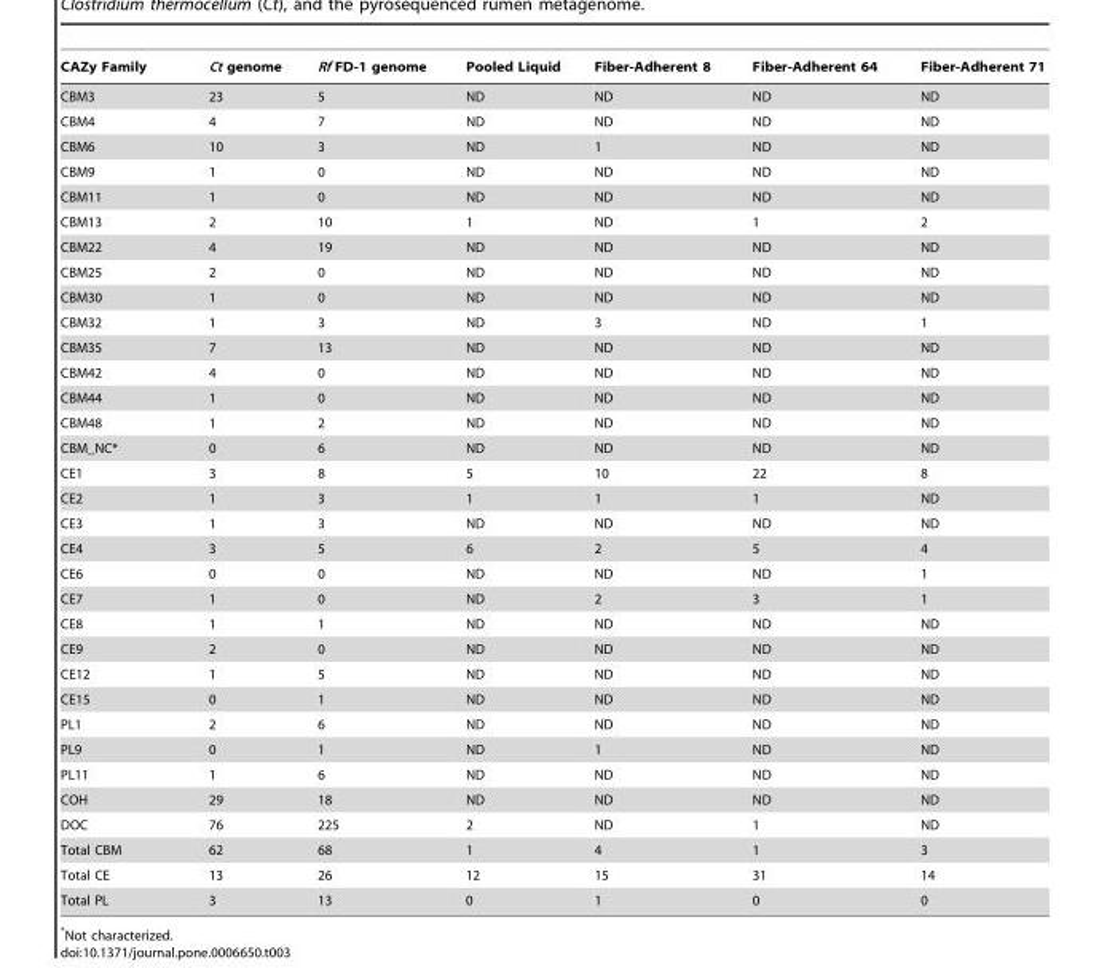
<table><thead><tr><td>CAZy Family</td><td>Ct genome</td><td>Rf FD-1 genome</td><td>Pooled Liquid</td><td>Fiber-Adherent 8</td><td>Fiber-Adherent 64</td><td>Fiber-Adherent 71</td></tr></thead><tbody><tr><td>CBM3</td><td>23</td><td>5</td><td>ND</td><td>ND</td><td>ND</td><td>ND</td></tr><tr><td>CBM4</td><td>4</td><td>7</td><td>ND</td><td>ND</td><td>ND</td><td>ND</td></tr><tr><td>CBM6</td><td>10</td><td>3</td><td>ND</td><td>1</td><td>ND</td><td>ND</td></tr><tr><td>CBM9</td><td>1</td><td>0</td><td>ND</td><td>ND</td><td>ND</td><td>ND</td></tr><tr><td>CBM11</td><td>1</td><td>0</td><td>ND</td><td>ND</td><td>ND</td><td>ND</td></tr><tr><td>CBM13</td><td>2</td><td>10</td><td>1</td><td>ND</td><td>1</td><td>2</td></tr><tr><td>CBM22</td><td>4</td><td>19</td><td>ND</td><td>ND</td><td>ND</td><td>ND</td></tr><tr><td>CBM25</td><td>2</td><td>0</td><td>ND</td><td>ND</td><td>ND</td><td>ND</td></tr><tr><td>CBM30</td><td>1</td><td>0</td><td>ND</td><td>ND</td><td>ND</td><td>ND</td></tr><tr><td>CBM32</td><td>1</td><td>3</td><td>ND</td><td>3</td><td>ND</td><td>1</td></tr><tr><td>CBM35</td><td>7</td><td>13</td><td>ND</td><td>ND</td><td>ND</td><td>ND</td></tr><tr><td>CBM42</td><td>4</td><td>0</td><td>ND</td><td>ND</td><td>ND</td><td>ND</td></tr><tr><td>CBM44</td><td>1</td><td>0</td><td>ND</td><td>ND</td><td>ND</td><td>ND</td></tr><tr><td>CBM48</td><td>1</td><td>2</td><td>ND</td><td>ND</td><td>ND</td><td>ND</td></tr><tr><td>CBM_NC*</td><td>0</td><td>6</td><td>ND</td><td>ND</td><td>ND</td><td>ND</td></tr><tr><td>CE1</td><td>3</td><td>8</td><td>5</td><td>10</td><td>22</td><td>8</td></tr><tr><td>CE2</td><td>1</td><td>3</td><td>1</td><td>1</td><td>1</td><td>ND</td></tr><tr><td>CE3</td><td>1</td><td>3</td><td>ND</td><td>ND</td><td>ND</td><td>ND</td></tr><tr><td>CE4</td><td>3</td><td>5</td><td>6</td><td>2</td><td>5</td><td>4</td></tr><tr><td>CE6</td><td>0</td><td>0</td><td>ND</td><td>ND</td><td>ND</td><td>1</td></tr><tr><td>CE7</td><td>1</td><td>0</td><td>ND</td><td>2</td><td>3</td><td>1</td></tr><tr><td>CE8</td><td>1</td><td>1</td><td>ND</td><td>ND</td><td>ND</td><td>ND</td></tr><tr><td>CE9</td><td>2</td><td>0</td><td>ND</td><td>ND</td><td>ND</td><td>ND</td></tr><tr><td>CE12</td><td>1</td><td>5</td><td>ND</td><td>ND</td><td>ND</td><td>ND</td></tr><tr><td>CE15</td><td>0</td><td>1</td><td>ND</td><td>ND</td><td>ND</td><td>ND</td></tr><tr><td>PL1</td><td>2</td><td>6</td><td>ND</td><td>ND</td><td>ND</td><td>ND</td></tr><tr><td>PL9</td><td>0</td><td>1</td><td>ND</td><td>1</td><td>ND</td><td>ND</td></tr><tr><td>PL11</td><td>1</td><td>6</td><td>ND</td><td>ND</td><td>ND</td><td>ND</td></tr><tr><td>COH</td><td>29</td><td>18</td><td>ND</td><td>ND</td><td>ND</td><td>ND</td></tr><tr><td>DOC</td><td>76</td><td>225</td><td>2</td><td>ND</td><td>1</td><td>ND</td></tr><tr><td>Total CBM</td><td>62</td><td>68</td><td>1</td><td>4</td><td>1</td><td>3</td></tr><tr><td>Total CE</td><td>13</td><td>26</td><td>12</td><td>15</td><td>31</td><td>14</td></tr><tr><td>Total PL</td><td>3</td><td>13</td><td>0</td><td>1</td><td>0</td><td>0</td></tr></tbody></table>